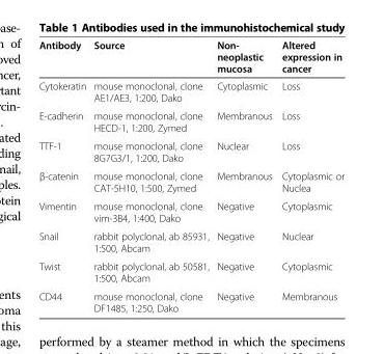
<table><thead><tr><td>Antibody</td><td>Source</td><td>Non- neoplastic mucosa</td><td>Altered expression in cancer</td></tr></thead><tbody><tr><td>Cytokeratin</td><td>mouse monoclonal, clone AE1/AE3, 1:200, Dako</td><td>Cytoplasmic</td><td>Loss</td></tr><tr><td>E-cadherin</td><td>mouse monoclonal, clone HECD-1, 1:200, Zymed</td><td>Membranous</td><td>Loss</td></tr><tr><td>TTF-1</td><td>mouse monoclonal, clone 8G7G3/1, 1:200, Dako</td><td>Nuclear</td><td>Loss</td></tr><tr><td>β-catenin</td><td>mouse monoclonal, clone CAT-5H10, 1:500, Zymed</td><td>Membranous</td><td>Cytoplasmic or Nuclea</td></tr><tr><td>Vimentin</td><td>mouse monoclonal, clone vim-3B4, 1:400, Dako</td><td>Negative</td><td>Cytoplasmic</td></tr><tr><td>Snail</td><td>rabbit polyclonal, ab 85931, 1:500, Abcam</td><td>Negative</td><td>Nuclear</td></tr><tr><td>Twist</td><td>rabbit polyclonal, ab 50581, 1:500, Abcam</td><td>Negative</td><td>Cytoplasmic</td></tr><tr><td>CD44</td><td>mouse monoclonal, clone DF1485, 1:250, Dako</td><td>Negative</td><td>Membranous</td></tr></tbody></table>